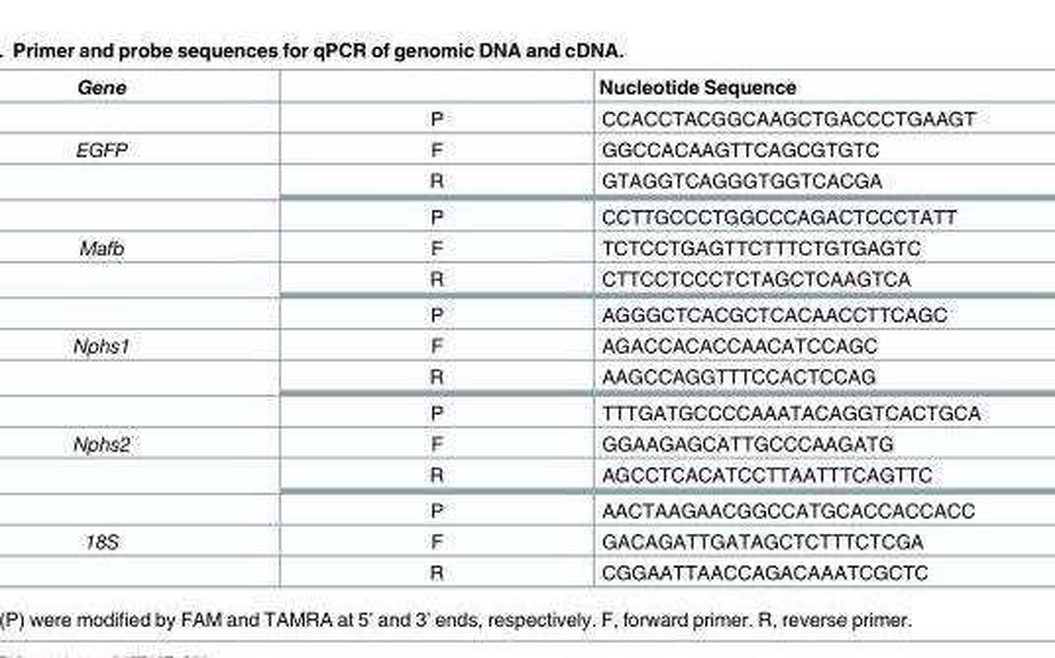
<table><thead><tr><td>Gene</td><td></td><td>Nucleotide Sequence</td></tr></thead><tbody><tr><td></td><td>P</td><td>CCACCTACGGCAAGCTGACCCTGAAGT</td></tr><tr><td rowspan="3">EGFP</td><td>F</td><td>GGCCACAAGTTCAGCGTGTC</td></tr><tr><td>R</td><td>GTAGGTCAGGGTGGTCACGA</td></tr><tr><td>P</td><td>CCTTGCCCTGGCCCAGACTCCCTATT</td></tr><tr><td rowspan="3">Mafb</td><td>F</td><td>TCTCCTGAGTTCTTTCTGTGAGTC</td></tr><tr><td>R</td><td>CTTCCTCCCTCTAGCTCAAGTCA</td></tr><tr><td>P</td><td>AGGGCTCACGCTCACAACCTTCAGC</td></tr><tr><td rowspan="3">Nphs1</td><td>F</td><td>AGACCACACCAACATCCAGC</td></tr><tr><td>R</td><td>AAGCCAGGTTTCCACTCCAG</td></tr><tr><td>P</td><td>TTTGATGCCCCAAATACAGGTCACTGCA</td></tr><tr><td rowspan="3">Nphs2</td><td>F</td><td>GGAAGAGCATTGCCCAAGATG</td></tr><tr><td>R</td><td>AGCCTCACATCCTTAATTTCAGTTC</td></tr><tr><td>P</td><td>AACTAAGAACGGCCATGCACCACCACC</td></tr><tr><td rowspan="2">18S</td><td>F</td><td>GACAGATTGATAGCTCTTTCTCGA</td></tr><tr><td>R</td><td>CGGAATTAACCAGACAAATCGCTC</td></tr></tbody></table>